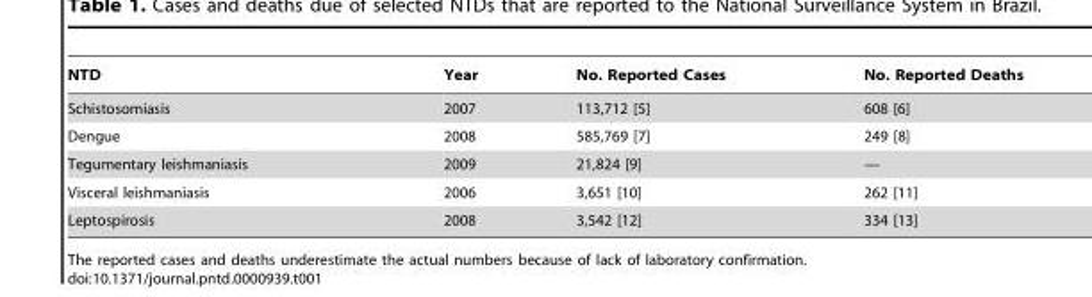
<table><thead><tr><td>NTD</td><td>Year</td><td>No. Reported Cases</td><td>No. Reported Deaths</td></tr></thead><tbody><tr><td>Schistosomiasis</td><td>2007</td><td>113,712 [5]</td><td>608 [6]</td></tr><tr><td>Dengue</td><td>2008</td><td>585,769 [7]</td><td>249 [8]</td></tr><tr><td>Tegumentary leishmaniasis</td><td>2009</td><td>21,824 [9]</td><td>—</td></tr><tr><td>Visceral leishmaniasis</td><td>2006</td><td>3,651 [10]</td><td>262 [11]</td></tr><tr><td>Leptospirosis</td><td>2008</td><td>3,542 [12]</td><td>334 [13]</td></tr></tbody></table>